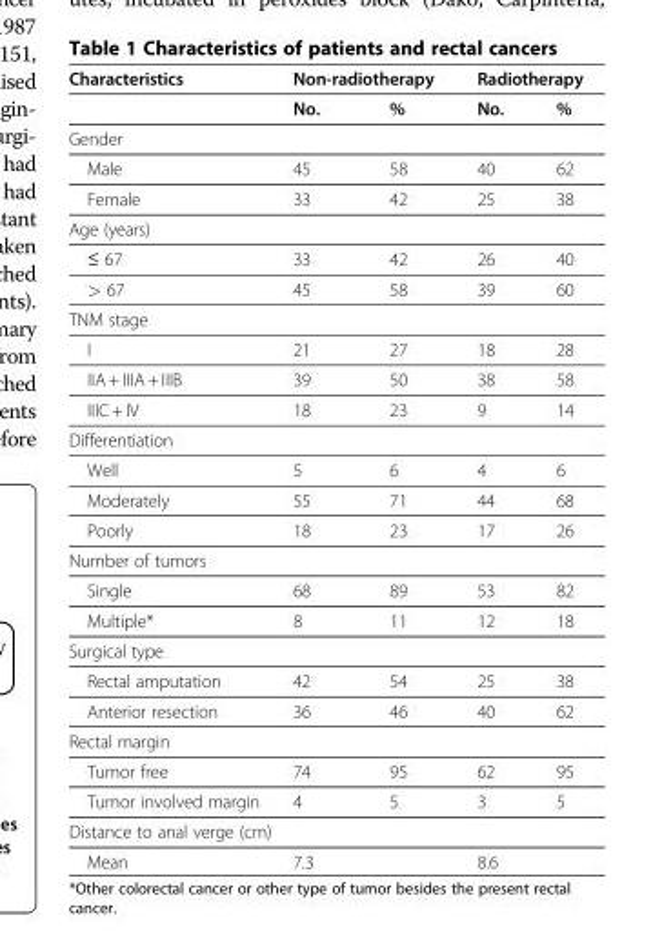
<table><thead><tr><td rowspan="2">Characteristics</td><td colspan="2">Non-radiotherapy</td><td colspan="2">Radiotherapy</td></tr><tr><td>No.</td><td>%</td><td>No.</td><td>%</td></tr></thead><tbody><tr><td colspan="5">Gender</td></tr><tr><td>Male</td><td>45</td><td>58</td><td>40</td><td>62</td></tr><tr><td>Female</td><td>33</td><td>42</td><td>25</td><td>38</td></tr><tr><td colspan="5">Age (years)</td></tr><tr><td>≤ 67</td><td>33</td><td>42</td><td>26</td><td>40</td></tr><tr><td>&gt; 67</td><td>45</td><td>58</td><td>39</td><td>60</td></tr><tr><td colspan="5">TNM stage</td></tr><tr><td>I</td><td>21</td><td>27</td><td>18</td><td>28</td></tr><tr><td>IIA + IIIA + IIIB</td><td>39</td><td>50</td><td>38</td><td>58</td></tr><tr><td>IIIC + IV</td><td>18</td><td>23</td><td>9</td><td>14</td></tr><tr><td colspan="5">Differentiation</td></tr><tr><td>Well</td><td>5</td><td>6</td><td>4</td><td>6</td></tr><tr><td>Moderately</td><td>55</td><td>71</td><td>44</td><td>68</td></tr><tr><td>Poorly</td><td>18</td><td>23</td><td>17</td><td>26</td></tr><tr><td colspan="5">Number of tumors</td></tr><tr><td>Single</td><td>68</td><td>89</td><td>53</td><td>82</td></tr><tr><td>Multiple*</td><td>8</td><td>11</td><td>12</td><td>18</td></tr><tr><td colspan="5">Surgical type</td></tr><tr><td>Rectal amputation</td><td>42</td><td>54</td><td>25</td><td>38</td></tr><tr><td>Anterior resection</td><td>36</td><td>46</td><td>40</td><td>62</td></tr><tr><td colspan="5">Rectal margin</td></tr><tr><td>Tumor free</td><td>74</td><td>95</td><td>62</td><td>95</td></tr><tr><td>Tumor involved margin</td><td>4</td><td>5</td><td>3</td><td>5</td></tr><tr><td colspan="5">Distance to anal verge (cm)</td></tr><tr><td>Mean</td><td>7.3</td><td></td><td>8.6</td><td></td></tr></tbody></table>